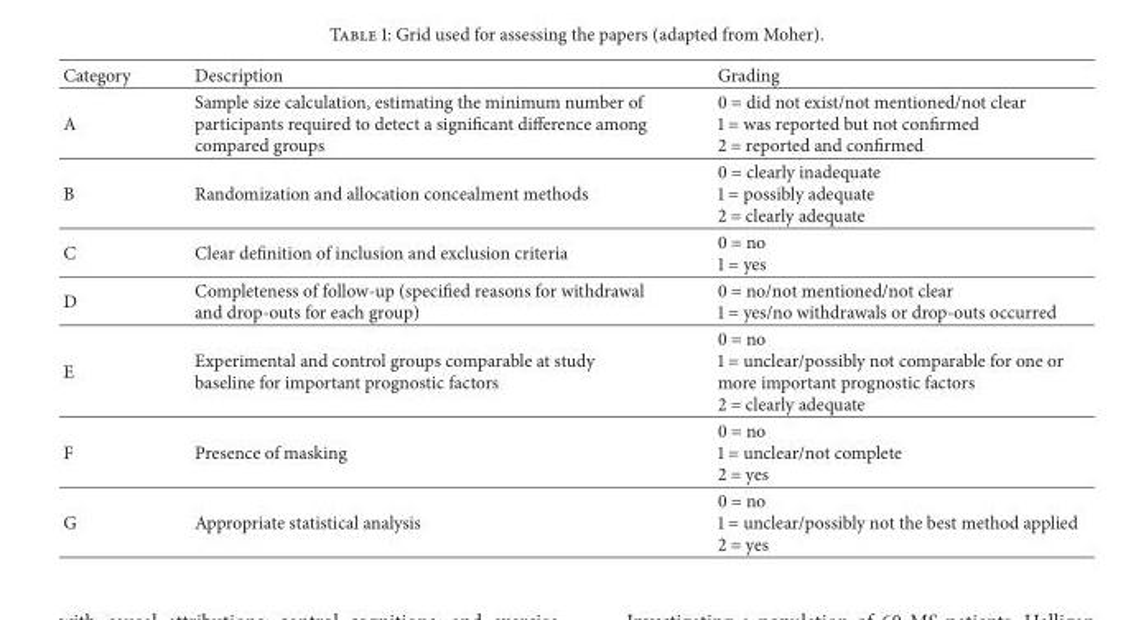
<table><thead><tr><td>Category</td><td>Description</td><td>Grading</td></tr></thead><tbody><tr><td>A</td><td>Sample size calculation, estimating the minimum number of participants required to detect a significant difference among compared groups</td><td>0 = did not exist/not mentioned/not clear 1 = was reported but not confirmed 2 = reported and confirmed</td></tr><tr><td>B</td><td>Randomization and allocation concealment methods</td><td>0 = clearly inadequate 1 = possibly adequate 2 = clearly adequate</td></tr><tr><td>C</td><td>Clear definition of inclusion and exclusion criteria</td><td>0 = no 1 = yes</td></tr><tr><td>D</td><td>Completeness of follow-up (specified reasons for withdrawal and drop-outs for each group)</td><td>0 = no/not mentioned/not clear 1 = yes/no withdrawals or drop-outs occurred</td></tr><tr><td>E</td><td>Experimental and control groups comparable at study baseline for important prognostic factors</td><td>0 = no 1 = unclear/possibly not comparable for one or more important prognostic factors 2 = clearly adequate</td></tr><tr><td>F</td><td>Presence of masking</td><td>0 = no 1 = unclear/not complete 2 = yes</td></tr><tr><td>G</td><td>Appropriate statistical analysis</td><td>0 = no 1 = unclear/possibly not the best method applied 2 = yes</td></tr></tbody></table>